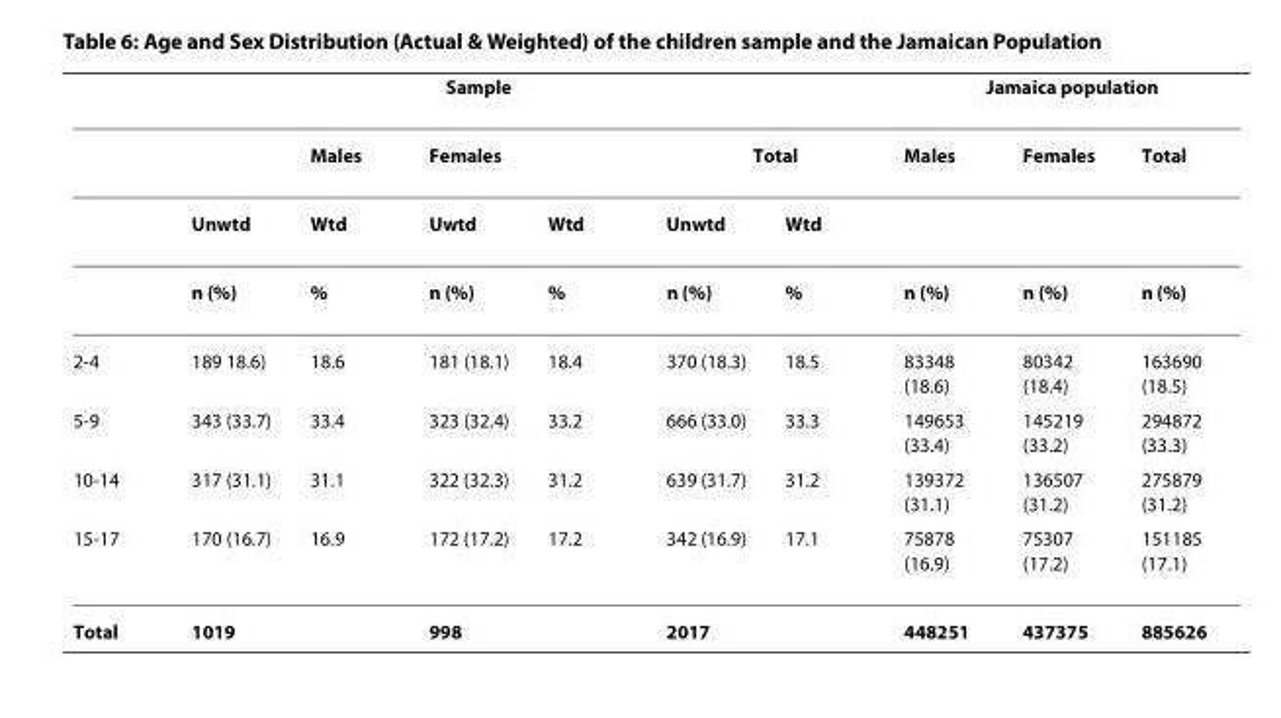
<table><thead><tr><td colspan="7">Sample</td><td colspan="3">Jamaica population</td></tr><tr><td rowspan="2"></td><td rowspan="2">Unwtd</td><td rowspan="2">Males Wtd</td><td colspan="2">Females</td><td colspan="2">Total</td><td rowspan="2">Males</td><td rowspan="2">Females</td><td rowspan="2">Total</td></tr><tr><td>Uwtd</td><td>Wtd</td><td>Unwtd</td><td>Wtd</td></tr></thead><tbody><tr><td></td><td>n (%)</td><td>%</td><td>n (%)</td><td>%</td><td>n (%)</td><td>%</td><td>n (%)</td><td>n (%)</td><td>n (%)</td></tr><tr><td>2-4</td><td>189 18.6)</td><td>18.6</td><td>181 (18.1)</td><td>18.4</td><td>370 (18.3)</td><td>18.5</td><td>83348 (18.6)</td><td>80342 (18.4)</td><td>163690 (18.5)</td></tr><tr><td>5-9</td><td>343 (33.7)</td><td>33.4</td><td>323 (32.4)</td><td>33.2</td><td>666 (33.0)</td><td>33.3</td><td>149653 (33.4)</td><td>145219 (33.2)</td><td>294872 (33.3)</td></tr><tr><td>10-14</td><td>317 (31.1)</td><td>31.1</td><td>322 (32.3)</td><td>31.2</td><td>639 (31.7)</td><td>31.2</td><td>139372 (31.1)</td><td>136507 (31.2)</td><td>275879 (31.2)</td></tr><tr><td>15-17</td><td>170 (16.7)</td><td>16.9</td><td>172 (17.2)</td><td>17.2</td><td>342 (16.9)</td><td>17.1</td><td>75878 (16.9)</td><td>75307 (17.2)</td><td>151185 (17.1)</td></tr><tr><td>Total</td><td>1019</td><td></td><td>998</td><td></td><td>2017</td><td></td><td>448251</td><td>437375</td><td>885626</td></tr></tbody></table>